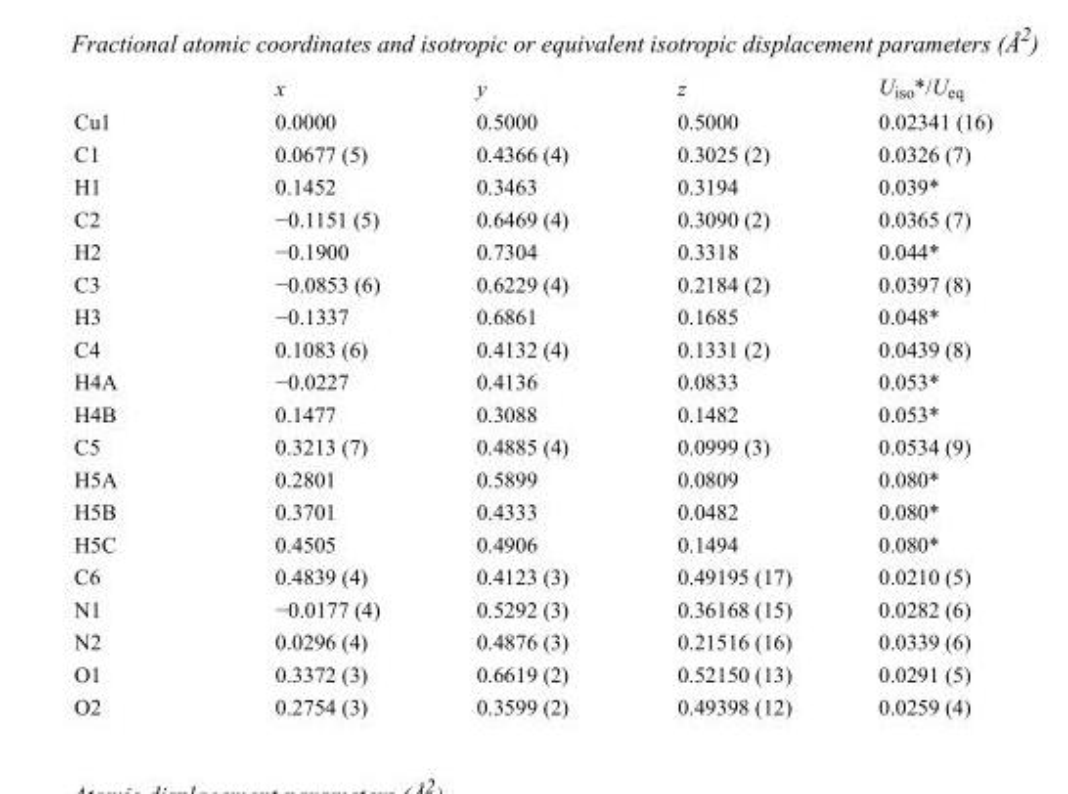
<table><thead><tr><td></td><td>x</td><td>y</td><td>z</td><td>U<sub>iso</sub>*/U<sub>eq</sub></td></tr></thead><tbody><tr><td>Cu1</td><td>0.0000</td><td>0.5000</td><td>0.5000</td><td>0.02341 (16)</td></tr><tr><td>C1</td><td>0.0677 (5)</td><td>0.4366 (4)</td><td>0.3025 (2)</td><td>0.0326 (7)</td></tr><tr><td>H1</td><td>0.1452</td><td>0.3463</td><td>0.3194</td><td>0.039*</td></tr><tr><td>C2</td><td>−0.1151 (5)</td><td>0.6469 (4)</td><td>0.3090 (2)</td><td>0.0365 (7)</td></tr><tr><td>H2</td><td>−0.1900</td><td>0.7304</td><td>0.3318</td><td>0.044*</td></tr><tr><td>C3</td><td>−0.0853 (6)</td><td>0.6229 (4)</td><td>0.2184 (2)</td><td>0.0397 (8)</td></tr><tr><td>H3</td><td>−0.1337</td><td>0.6861</td><td>0.1685</td><td>0.048*</td></tr><tr><td>C4</td><td>0.1083 (6)</td><td>0.4132 (4)</td><td>0.1331 (2)</td><td>0.0439 (8)</td></tr><tr><td>H4A</td><td>−0.0227</td><td>0.4136</td><td>0.0833</td><td>0.053*</td></tr><tr><td>H4B</td><td>0.1477</td><td>0.3088</td><td>0.1482</td><td>0.053*</td></tr><tr><td>C5</td><td>0.3213 (7)</td><td>0.4885 (4)</td><td>0.0999 (3)</td><td>0.0534 (9)</td></tr><tr><td>H5A</td><td>0.2801</td><td>0.5899</td><td>0.0809</td><td>0.080*</td></tr><tr><td>H5B</td><td>0.3701</td><td>0.4333</td><td>0.0482</td><td>0.080*</td></tr><tr><td>H5C</td><td>0.4505</td><td>0.4906</td><td>0.1494</td><td>0.080*</td></tr><tr><td>C6</td><td>0.4839 (4)</td><td>0.4123 (3)</td><td>0.49195 (17)</td><td>0.0210 (5)</td></tr><tr><td>N1</td><td>−0.0177 (4)</td><td>0.5292 (3)</td><td>0.36168 (15)</td><td>0.0282 (6)</td></tr><tr><td>N2</td><td>0.0296 (4)</td><td>0.4876 (3)</td><td>0.21516 (16)</td><td>0.0339 (6)</td></tr><tr><td>O1</td><td>0.3372 (3)</td><td>0.6619 (2)</td><td>0.52150 (13)</td><td>0.0291 (5)</td></tr><tr><td>O2</td><td>0.2754 (3)</td><td>0.3599 (2)</td><td>0.49398 (12)</td><td>0.0259 (4)</td></tr></tbody></table>